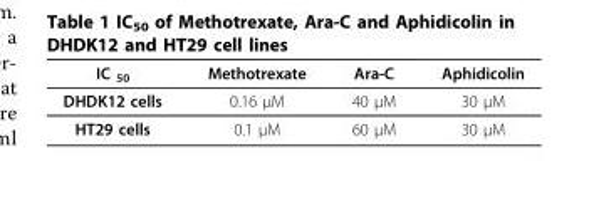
<table><thead><tr><td>IC <sub>50</sub></td><td>Methotrexate</td><td>Ara-C</td><td>Aphidicolin</td></tr></thead><tbody><tr><td>DHDK12 cells</td><td>0.16 μM</td><td>40 μM</td><td>30 μM</td></tr><tr><td>HT29 cells</td><td>0.1 μM</td><td>60 μM</td><td>30 μM</td></tr></tbody></table>